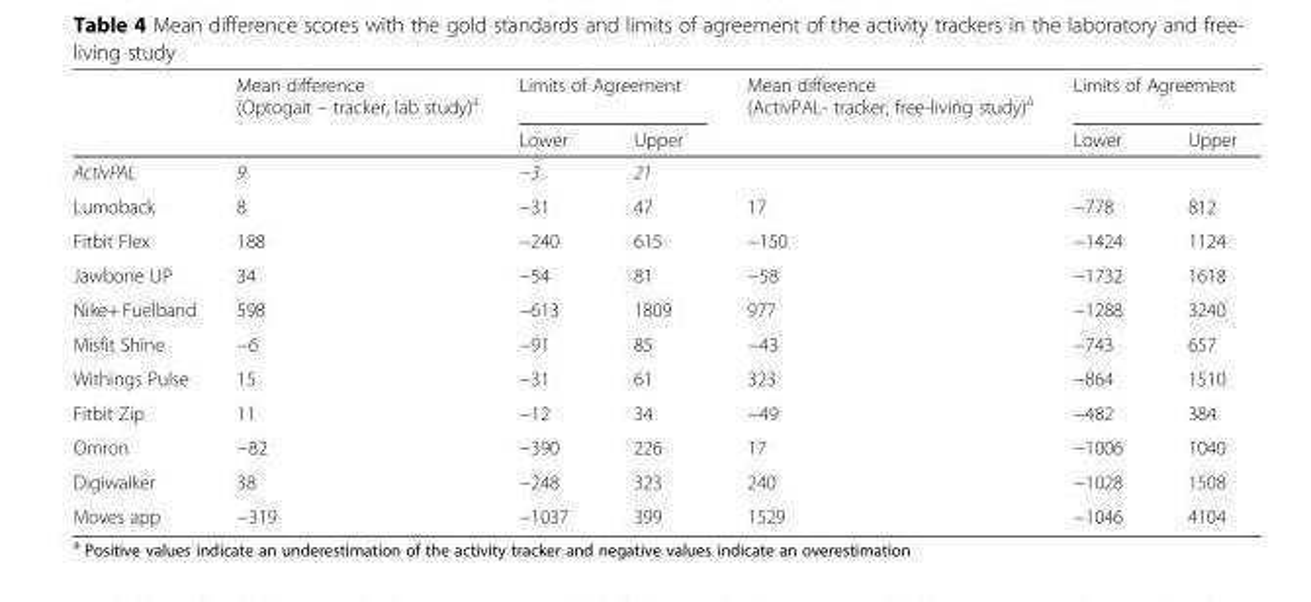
<table><thead><tr><td rowspan="2"></td><td rowspan="2">Mean difference (Optogait – tracker, lab study)<sup>a</sup></td><td colspan="2">Limits of Agreement</td><td rowspan="2">Mean difference (ActivPAL- tracker, free-living study)<sup>a</sup></td><td colspan="2">Limits of Agreement</td></tr><tr><td>Lower</td><td>Upper</td><td>Lower</td><td>Upper</td></tr></thead><tbody><tr><td>ActivPAL</td><td>9</td><td>−3</td><td>21</td><td></td><td></td><td></td></tr><tr><td>Lumoback</td><td>8</td><td>−31</td><td>47</td><td>17</td><td>−778</td><td>812</td></tr><tr><td>Fitbit Flex</td><td>188</td><td>−240</td><td>615</td><td>−150</td><td>−1424</td><td>1124</td></tr><tr><td>Jawbone UP</td><td>34</td><td>−54</td><td>81</td><td>−58</td><td>−1732</td><td>1618</td></tr><tr><td>Nike+ Fuelband</td><td>598</td><td>−613</td><td>1809</td><td>977</td><td>−1288</td><td>3240</td></tr><tr><td>Misfit Shine</td><td>−6</td><td>−91</td><td>85</td><td>−43</td><td>−743</td><td>657</td></tr><tr><td>Withings Pulse</td><td>15</td><td>−31</td><td>61</td><td>323</td><td>−864</td><td>1510</td></tr><tr><td>Fitbit Zip</td><td>11</td><td>−12</td><td>34</td><td>−49</td><td>−482</td><td>384</td></tr><tr><td>Omron</td><td>−82</td><td>−390</td><td>226</td><td>17</td><td>−1006</td><td>1040</td></tr><tr><td>Digiwalker</td><td>38</td><td>−248</td><td>323</td><td>240</td><td>−1028</td><td>1508</td></tr><tr><td>Moves app</td><td>−319</td><td>−1037</td><td>399</td><td>1529</td><td>−1046</td><td>4104</td></tr></tbody></table>